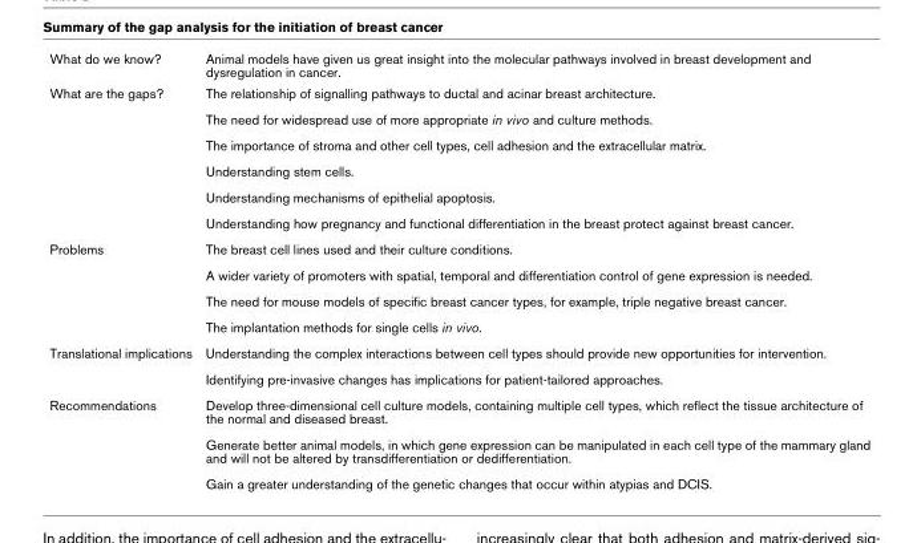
<table><tbody><tr><td>What do we know?</td><td>Animal models have given us great insight into the molecular pathways involved in breast development and dysregulation in cancer.</td></tr><tr><td rowspan="6">What are the gaps?</td><td>The relationship of signalling pathways to ductal and acinar breast architecture.</td></tr><tr><td>The need for widespread use of more appropriate in vivo and culture methods.</td></tr><tr><td>The importance of stroma and other cell types, cell adhesion and the extracellular matrix.</td></tr><tr><td>Understanding stem cells.</td></tr><tr><td>Understanding mechanisms of epithelial apoptosis.</td></tr><tr><td>Understanding how pregnancy and functional differentiation in the breast protect against breast cancer.</td></tr><tr><td rowspan="4">Problems</td><td>The breast cell lines used and their culture conditions.</td></tr><tr><td>A wider variety of promoters with spatial, temporal and differentiation control of gene expression is needed.</td></tr><tr><td>The need for mouse models of specific breast cancer types, for example, triple negative breast cancer.</td></tr><tr><td>The implantation methods for single cells in vivo.</td></tr><tr><td rowspan="2">Translational implications</td><td>Understanding the complex interactions between cell types should provide new opportunities for intervention.</td></tr><tr><td>Identifying pre-invasive changes has implications for patient-tailored approaches.</td></tr><tr><td rowspan="3">Recommendations</td><td>Develop three-dimensional cell culture models, containing multiple cell types, which reflect the tissue architecture of the normal and diseased breast.</td></tr><tr><td>Generate better animal models, in which gene expression can be manipulated in each cell type of the mammary gland and will not be altered by transdifferentiation or dedifferentiation.</td></tr><tr><td>Gain a greater understanding of the genetic changes that occur within atypias and DCIS.</td></tr></tbody></table>